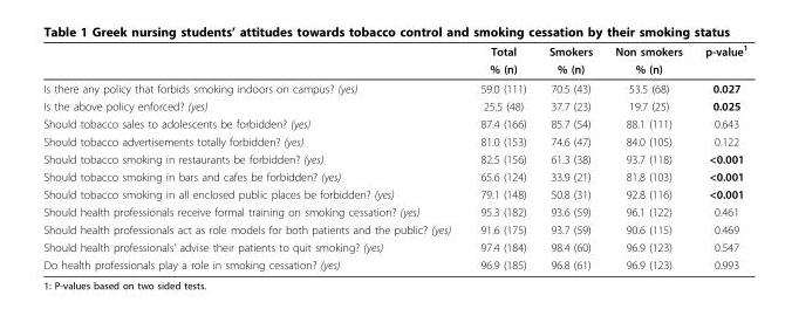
<table><thead><tr><td rowspan="2"></td><td rowspan="2">Total % (n)</td><td rowspan="2">Smokers % (n)</td><td rowspan="2">Non smokers % (n)</td><td rowspan="2">p-value<sup>1</sup></td></tr><tr></tr></thead><tbody><tr><td>Is there any policy that forbids smoking indoors on campus? (yes)</td><td>59.0 (111)</td><td>70.5 (43)</td><td>53.5 (68)</td><td>0.027</td></tr><tr><td>Is the above policy enforced? (yes)</td><td>25.5 (48)</td><td>37.7 (23)</td><td>19.7 (25)</td><td>0.025</td></tr><tr><td>Should tobacco sales to adolescents be forbidden? (yes)</td><td>87.4 (166)</td><td>85.7 (54)</td><td>88.1 (111)</td><td>0.643</td></tr><tr><td>Should tobacco advertisements totally forbidden? (yes)</td><td>81.0 (153)</td><td>74.6 (47)</td><td>84.0 (105)</td><td>0.122</td></tr><tr><td>Should tobacco smoking in restaurants be forbidden? (yes)</td><td>82.5 (156)</td><td>61.3 (38)</td><td>93.7 (118)</td><td>&lt;0.001</td></tr><tr><td>Should tobacco smoking in bars and cafes be forbidden? (yes)</td><td>65.6 (124)</td><td>33.9 (21)</td><td>81.8 (103)</td><td>&lt;0.001</td></tr><tr><td>Should tobacco smoking in all enclosed public places be forbidden? (yes)</td><td>79.1 (148)</td><td>50.8 (31)</td><td>92.8 (116)</td><td>&lt;0.001</td></tr><tr><td>Should health professionals receive formal training on smoking cessation? (yes)</td><td>95.3 (182)</td><td>93.6 (59)</td><td>96.1 (122)</td><td>0.461</td></tr><tr><td>Should health professionals act as role models for both patients and the public? (yes)</td><td>91.6 (175)</td><td>93.7 (59)</td><td>90.6 (115)</td><td>0.469</td></tr><tr><td>Should health professionals’ advise their patients to quit smoking? (yes)</td><td>97.4 (184)</td><td>98.4 (60)</td><td>96.9 (123)</td><td>0.547</td></tr><tr><td>Do health professionals play a role in smoking cessation? (yes)</td><td>96.9 (185)</td><td>96.8 (61)</td><td>96.9 (123)</td><td>0.993</td></tr></tbody></table>